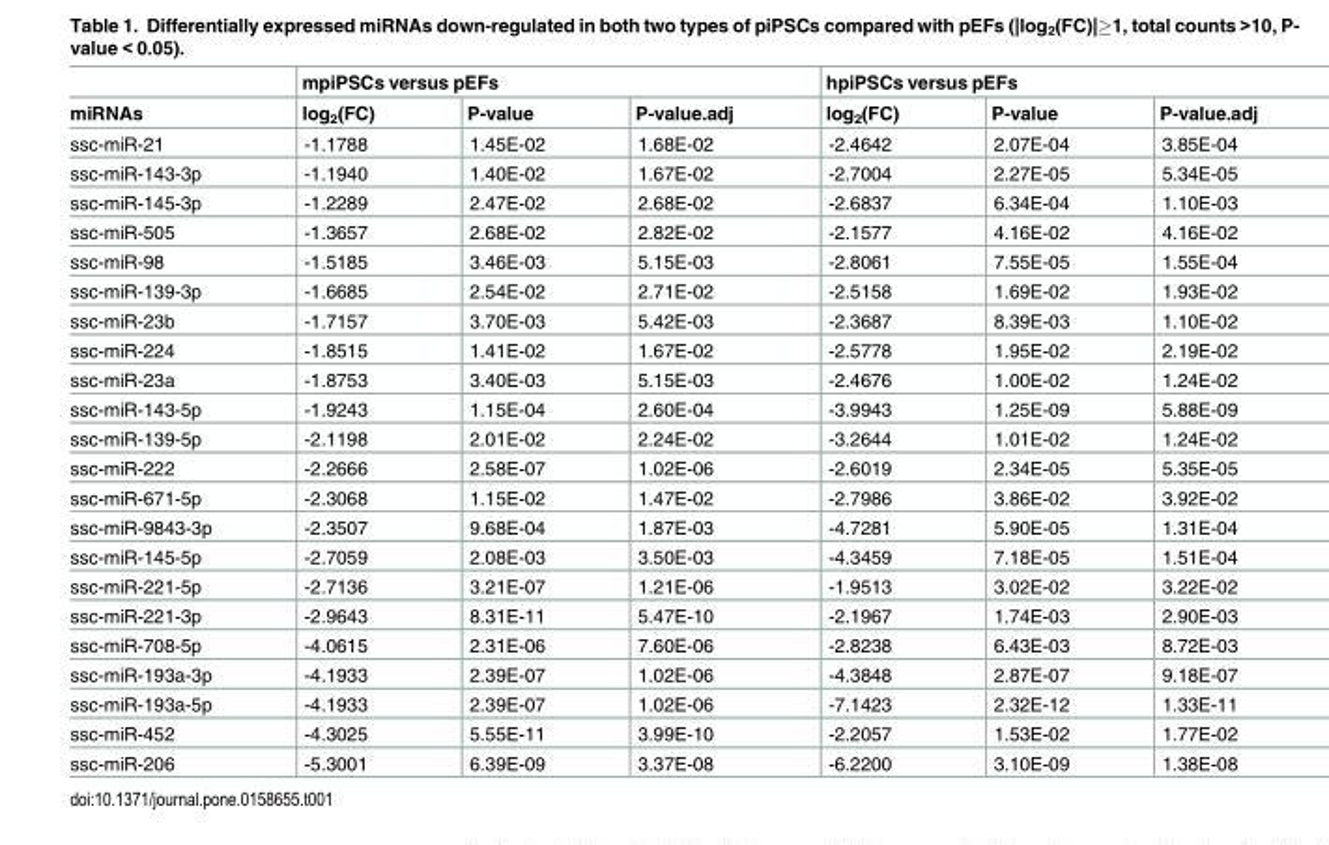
<table><thead><tr><td rowspan="2">miRNAs</td><td colspan="3">mpiPSCs versus pEFs</td><td colspan="3">hpiPSCs versus pEFs</td></tr><tr><td>log<sub>2</sub>(FC)</td><td>P-value</td><td>P-value.adj</td><td>log<sub>2</sub>(FC)</td><td>P-value</td><td>P-value.adj</td></tr></thead><tbody><tr><td>ssc-miR-21</td><td>-1.1788</td><td>1.45E-02</td><td>1.68E-02</td><td>-2.4642</td><td>2.07E-04</td><td>3.85E-04</td></tr><tr><td>ssc-miR-143-3p</td><td>-1.1940</td><td>1.40E-02</td><td>1.67E-02</td><td>-2.7004</td><td>2.27E-05</td><td>5.34E-05</td></tr><tr><td>ssc-miR-145-3p</td><td>-1.2289</td><td>2.47E-02</td><td>2.68E-02</td><td>-2.6837</td><td>6.34E-04</td><td>1.10E-03</td></tr><tr><td>ssc-miR-505</td><td>-1.3657</td><td>2.68E-02</td><td>2.82E-02</td><td>-2.1577</td><td>4.16E-02</td><td>4.16E-02</td></tr><tr><td>ssc-miR-98</td><td>-1.5185</td><td>3.46E-03</td><td>5.15E-03</td><td>-2.8061</td><td>7.55E-05</td><td>1.55E-04</td></tr><tr><td>ssc-miR-139-3p</td><td>-1.6685</td><td>2.54E-02</td><td>2.71E-02</td><td>-2.5158</td><td>1.69E-02</td><td>1.93E-02</td></tr><tr><td>ssc-miR-23b</td><td>-1.7157</td><td>3.70E-03</td><td>5.42E-03</td><td>-2.3687</td><td>8.39E-03</td><td>1.10E-02</td></tr><tr><td>ssc-miR-224</td><td>-1.8515</td><td>1.41E-02</td><td>1.67E-02</td><td>-2.5778</td><td>1.95E-02</td><td>2.19E-02</td></tr><tr><td>ssc-miR-23a</td><td>-1.8753</td><td>3.40E-03</td><td>5.15E-03</td><td>-2.4676</td><td>1.00E-02</td><td>1.24E-02</td></tr><tr><td>ssc-miR-143-5p</td><td>-1.9243</td><td>1.15E-04</td><td>2.60E-04</td><td>-3.9943</td><td>1.25E-09</td><td>5.88E-09</td></tr><tr><td>ssc-miR-139-5p</td><td>-2.1198</td><td>2.01E-02</td><td>2.24E-02</td><td>-3.2644</td><td>1.01E-02</td><td>1.24E-02</td></tr><tr><td>ssc-miR-222</td><td>-2.2666</td><td>2.58E-07</td><td>1.02E-06</td><td>-2.6019</td><td>2.34E-05</td><td>5.35E-05</td></tr><tr><td>ssc-miR-671-5p</td><td>-2.3068</td><td>1.15E-02</td><td>1.47E-02</td><td>-2.7986</td><td>3.86E-02</td><td>3.92E-02</td></tr><tr><td>ssc-miR-9843-3p</td><td>-2.3507</td><td>9.68E-04</td><td>1.87E-03</td><td>-4.7281</td><td>5.90E-05</td><td>1.31E-04</td></tr><tr><td>ssc-miR-145-5p</td><td>-2.7059</td><td>2.08E-03</td><td>3.50E-03</td><td>-4.3459</td><td>7.18E-05</td><td>1.51E-04</td></tr><tr><td>ssc-miR-221-5p</td><td>-2.7136</td><td>3.21E-07</td><td>1.21E-06</td><td>-1.9513</td><td>3.02E-02</td><td>3.22E-02</td></tr><tr><td>ssc-miR-221-3p</td><td>-2.9643</td><td>8.31E-11</td><td>5.47E-10</td><td>-2.1967</td><td>1.74E-03</td><td>2.90E-03</td></tr><tr><td>ssc-miR-708-5p</td><td>-4.0615</td><td>2.31E-06</td><td>7.60E-06</td><td>-2.8238</td><td>6.43E-03</td><td>8.72E-03</td></tr><tr><td>ssc-miR-193a-3p</td><td>-4.1933</td><td>2.39E-07</td><td>1.02E-06</td><td>-4.3848</td><td>2.87E-07</td><td>9.18E-07</td></tr><tr><td>ssc-miR-193a-5p</td><td>-4.1933</td><td>2.39E-07</td><td>1.02E-06</td><td>-7.1423</td><td>2.32E-12</td><td>1.33E-11</td></tr><tr><td>ssc-miR-452</td><td>-4.3025</td><td>5.55E-11</td><td>3.99E-10</td><td>-2.2057</td><td>1.53E-02</td><td>1.77E-02</td></tr><tr><td>ssc-miR-206</td><td>-5.3001</td><td>6.39E-09</td><td>3.37E-08</td><td>-6.2200</td><td>3.10E-09</td><td>1.38E-08</td></tr></tbody></table>